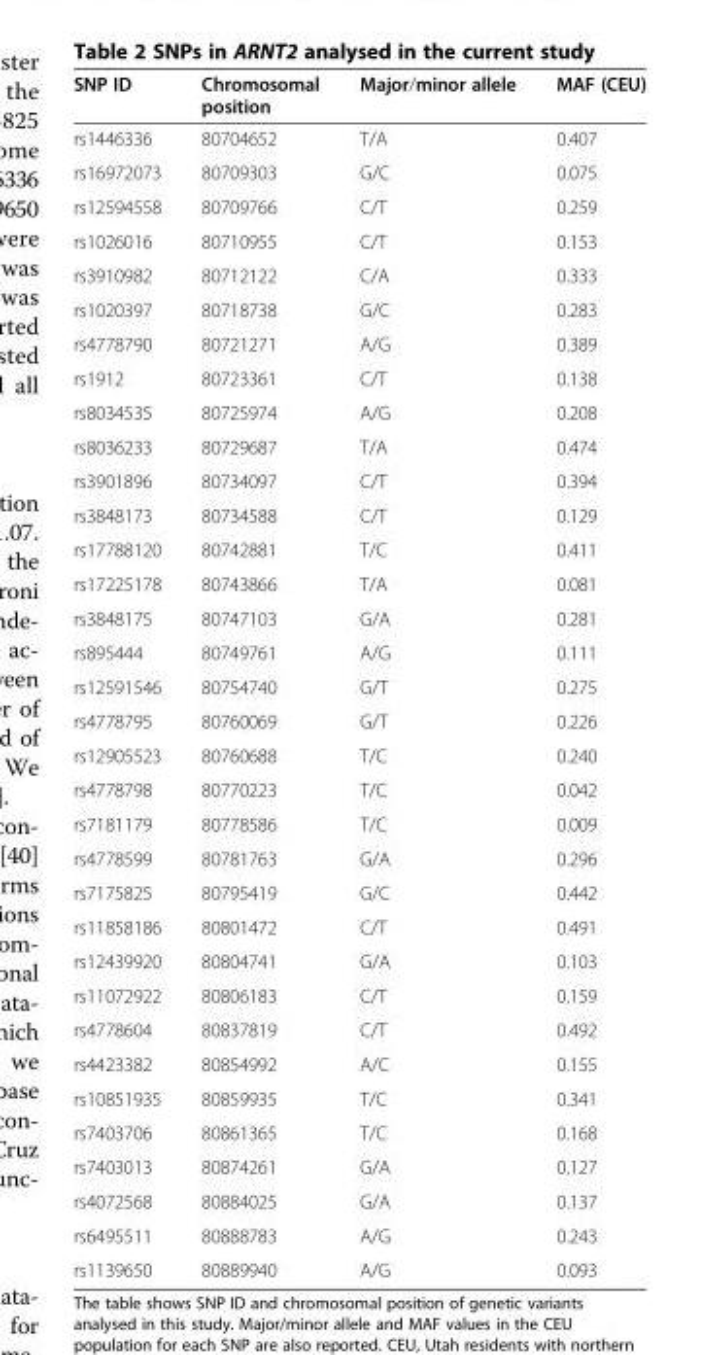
<table><thead><tr><td>SNP ID</td><td>Chromosomal position</td><td>Major/minor allele</td><td>MAF (CEU)</td></tr></thead><tbody><tr><td>rs1446336</td><td>80704652</td><td>T/A</td><td>0.407</td></tr><tr><td>rs16972073</td><td>80709303</td><td>G/C</td><td>0.075</td></tr><tr><td>rs12594558</td><td>80709766</td><td>C/T</td><td>0.259</td></tr><tr><td>rs1026016</td><td>80710955</td><td>C/T</td><td>0.153</td></tr><tr><td>rs3910982</td><td>80712122</td><td>C/A</td><td>0.333</td></tr><tr><td>rs1020397</td><td>80718738</td><td>G/C</td><td>0.283</td></tr><tr><td>rs4778790</td><td>80721271</td><td>A/G</td><td>0.389</td></tr><tr><td>rs1912</td><td>80723361</td><td>C/T</td><td>0.138</td></tr><tr><td>rs8034535</td><td>80725974</td><td>A/G</td><td>0.208</td></tr><tr><td>rs8036233</td><td>80729687</td><td>T/A</td><td>0.474</td></tr><tr><td>rs3901896</td><td>80734097</td><td>C/T</td><td>0.394</td></tr><tr><td>rs3848173</td><td>80734588</td><td>C/T</td><td>0.129</td></tr><tr><td>rs17788120</td><td>80742881</td><td>T/C</td><td>0.411</td></tr><tr><td>rs17225178</td><td>80743866</td><td>T/A</td><td>0.081</td></tr><tr><td>rs3848175</td><td>80747103</td><td>G/A</td><td>0.281</td></tr><tr><td>rs895444</td><td>80749761</td><td>A/G</td><td>0.111</td></tr><tr><td>rs12591546</td><td>80754740</td><td>G/T</td><td>0.275</td></tr><tr><td>rs4778795</td><td>80760069</td><td>G/T</td><td>0.226</td></tr><tr><td>rs12905523</td><td>80760688</td><td>T/C</td><td>0.240</td></tr><tr><td>rs4778798</td><td>80770223</td><td>T/C</td><td>0.042</td></tr><tr><td>rs7181179</td><td>80778586</td><td>T/C</td><td>0.009</td></tr><tr><td>rs4778599</td><td>80781763</td><td>G/A</td><td>0.296</td></tr><tr><td>rs7175825</td><td>80795419</td><td>G/C</td><td>0.442</td></tr><tr><td>rs11858186</td><td>80801472</td><td>C/T</td><td>0.491</td></tr><tr><td>rs12439920</td><td>80804741</td><td>G/A</td><td>0.103</td></tr><tr><td>rs11072922</td><td>80806183</td><td>C/T</td><td>0.159</td></tr><tr><td>rs4778604</td><td>80837819</td><td>C/T</td><td>0.492</td></tr><tr><td>rs4423382</td><td>80854992</td><td>A/C</td><td>0.155</td></tr><tr><td>rs10851935</td><td>80859935</td><td>T/C</td><td>0.341</td></tr><tr><td>rs7403706</td><td>80861365</td><td>T/C</td><td>0.168</td></tr><tr><td>rs7403013</td><td>80874261</td><td>G/A</td><td>0.127</td></tr><tr><td>rs4072568</td><td>80884025</td><td>G/A</td><td>0.137</td></tr><tr><td>rs6495511</td><td>80888783</td><td>A/G</td><td>0.243</td></tr><tr><td>rs1139650</td><td>80889940</td><td>A/G</td><td>0.093</td></tr></tbody></table>